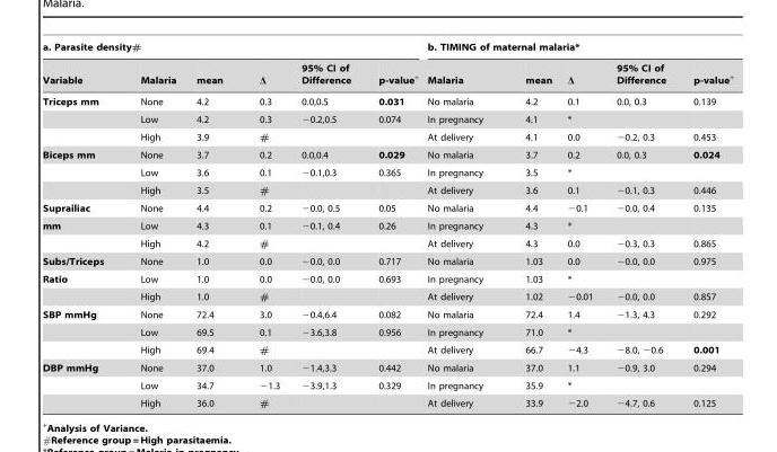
<table><thead><tr><td colspan="6">a. Parasite density#</td><td colspan="5">b. TIMING of maternal malaria*</td></tr><tr><td>Variable</td><td>Malaria</td><td>mean</td><td>Δ</td><td>95% CI of Difference</td><td>p-value+</td><td>Malaria</td><td>mean</td><td>Δ</td><td>95% CI of Difference</td><td>p-value+</td></tr></thead><tbody><tr><td rowspan="3">Triceps mm</td><td>None</td><td>4.2</td><td>0.3</td><td>0.0,0.5</td><td>0.031</td><td>No malaria</td><td>4.2</td><td>0.1</td><td>0.0, 0.3</td><td>0.139</td></tr><tr><td>Low</td><td>4.2</td><td>0.3</td><td>−0.2,0.5</td><td>0.074</td><td>In pregnancy</td><td>4.1</td><td>*</td><td></td><td></td></tr><tr><td>High</td><td>3.9</td><td>#</td><td></td><td></td><td>At delivery</td><td>4.1</td><td>0.0</td><td>−0.2, 0.3</td><td>0.453</td></tr><tr><td rowspan="3">Biceps mm</td><td>None</td><td>3.7</td><td>0.2</td><td>0.0,0.4</td><td>0.029</td><td>No malaria</td><td>3.7</td><td>0.2</td><td>0.0, 0.3</td><td>0.024</td></tr><tr><td>Low</td><td>3.6</td><td>0.1</td><td>−0.1,0.3</td><td>0.365</td><td>In pregnancy</td><td>3.5</td><td>*</td><td></td><td></td></tr><tr><td>High</td><td>3.5</td><td>#</td><td></td><td></td><td>At delivery</td><td>3.6</td><td>0.1</td><td>−0.1, 0.3</td><td>0.446</td></tr><tr><td>Suprailiac</td><td>None</td><td>4.4</td><td>0.2</td><td>−0.0, 0.5</td><td>0.05</td><td>No malaria</td><td>4.4</td><td>−0.1</td><td>−0.0, 0.4</td><td>0.135</td></tr><tr><td rowspan="2">mm</td><td>Low</td><td>4.3</td><td>0.1</td><td>−0.1, 0.4</td><td>0.26</td><td>In pregnancy</td><td>4.3</td><td>*</td><td></td><td></td></tr><tr><td>High</td><td>4.2</td><td>#</td><td></td><td></td><td>At delivery</td><td>4.3</td><td>0.0</td><td>−0.3, 0.3</td><td>0.865</td></tr><tr><td>Subs/Triceps</td><td>None</td><td>1.0</td><td>0.0</td><td>−0.0, 0.0</td><td>0.717</td><td>No malaria</td><td>1.03</td><td>0.0</td><td>−0.0, 0.0</td><td>0.975</td></tr><tr><td rowspan="2">Ratio</td><td>Low</td><td>1.0</td><td>0.0</td><td>−0.0, 0.0</td><td>0.693</td><td>In pregnancy</td><td>1.03</td><td>*</td><td></td><td></td></tr><tr><td>High</td><td>1.0</td><td>#</td><td></td><td></td><td>At delivery</td><td>1.02</td><td>−0.01</td><td>−0.0, 0.0</td><td>0.857</td></tr><tr><td rowspan="3">SBP mmHg</td><td>None</td><td>72.4</td><td>3.0</td><td>−0.4,6.4</td><td>0.082</td><td>No malaria</td><td>72.4</td><td>1.4</td><td>−1.3, 4.3</td><td>0.292</td></tr><tr><td>Low</td><td>69.5</td><td>0.1</td><td>−3.6,3.8</td><td>0.956</td><td>In pregnancy</td><td>71.0</td><td>*</td><td></td><td></td></tr><tr><td>High</td><td>69.4</td><td>#</td><td></td><td></td><td>At delivery</td><td>66.7</td><td>−4.3</td><td>−8.0, −0.6</td><td>0.001</td></tr><tr><td rowspan="3">DBP mmHg</td><td>None</td><td>37.0</td><td>1.0</td><td>−1.4,3.3</td><td>0.442</td><td>No malaria</td><td>37.0</td><td>1.1</td><td>−0.9, 3.0</td><td>0.294</td></tr><tr><td>Low</td><td>34.7</td><td>−1.3</td><td>−3.9,1.3</td><td>0.329</td><td>In pregnancy</td><td>35.9</td><td>*</td><td></td><td></td></tr><tr><td>High</td><td>36.0</td><td>#</td><td></td><td></td><td>At delivery</td><td>33.9</td><td>−2.0</td><td>−4.7, 0.6</td><td>0.125</td></tr></tbody></table>